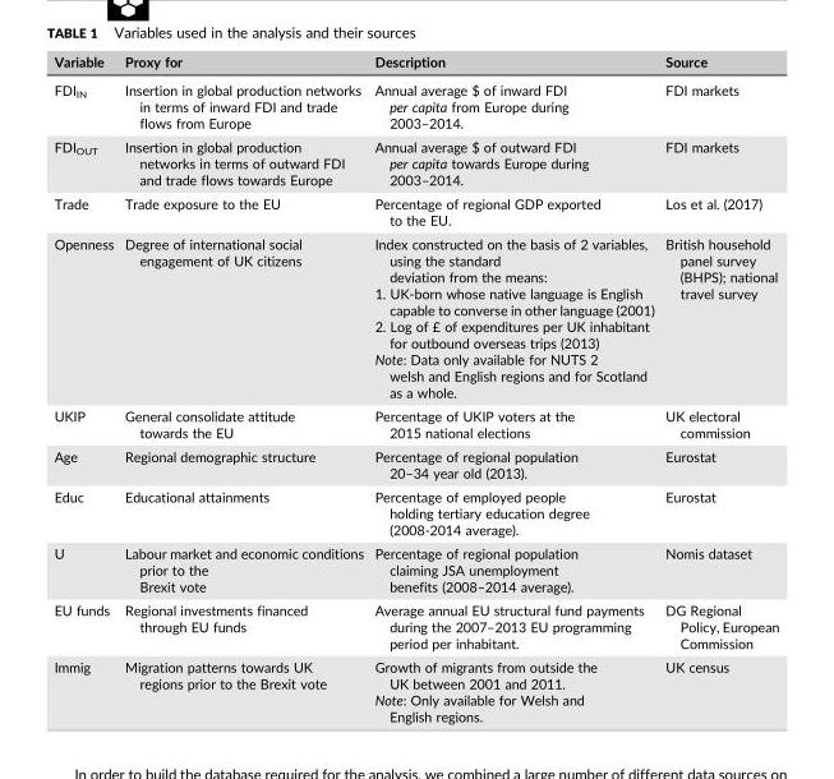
<table><thead><tr><td>Variable</td><td>Proxy for</td><td>Description</td><td>Source</td></tr></thead><tbody><tr><td>FDI<sub>IN</sub></td><td>Insertion in global production networks in terms of inward FDI and trade flows from Europe</td><td>Annual average $ of inward FDI per capita from Europe during 2003–2014.</td><td>FDI markets</td></tr><tr><td>FDI<sub>OUT</sub></td><td>Insertion in global production networks in terms of outward FDI and trade flows towards Europe</td><td>Annual average $ of outward FDI per capita towards Europe during 2003–2014.</td><td>FDI markets</td></tr><tr><td>Trade</td><td>Trade exposure to the EU</td><td>Percentage of regional GDP exported to the EU.</td><td>Los et al. (2017)</td></tr><tr><td>Openness</td><td>Degree of international social engagement of UK citizens</td><td>Index constructed on the basis of 2 variables, using the standard deviation from the means: 1. UK‐born whose native language is English capable to converse in other language (2001) 2. Log of £ of expenditures per UK inhabitant for outbound overseas trips (2013) Note: Data only available for NUTS 2 welsh and English regions and for Scotland as a whole.</td><td>British household panel survey (BHPS); national travel survey</td></tr><tr><td>UKIP</td><td>General consolidate attitude towards the EU</td><td>Percentage of UKIP voters at the 2015 national elections</td><td>UK electoral commission</td></tr><tr><td>Age</td><td>Regional demographic structure</td><td>Percentage of regional population 20–34 year old (2013).</td><td>Eurostat</td></tr><tr><td>Educ</td><td>Educational attainments</td><td>Percentage of employed people holding tertiary education degree (2008‐2014 average).</td><td>Eurostat</td></tr><tr><td>U</td><td>Labour market and economic conditions prior to the Brexit vote</td><td>Percentage of regional population claiming JSA unemployment benefits (2008–2014 average).</td><td>Nomis dataset</td></tr><tr><td>EU funds</td><td>Regional investments financed through EU funds</td><td>Average annual EU structural fund payments during the 2007–2013 EU programming period per inhabitant.</td><td>DG Regional Policy, European Commission</td></tr><tr><td>Immig</td><td>Migration patterns towards UK regions prior to the Brexit vote</td><td>Growth of migrants from outside the UK between 2001 and 2011. Note: Only available for Welsh and English regions.</td><td>UK census</td></tr></tbody></table>